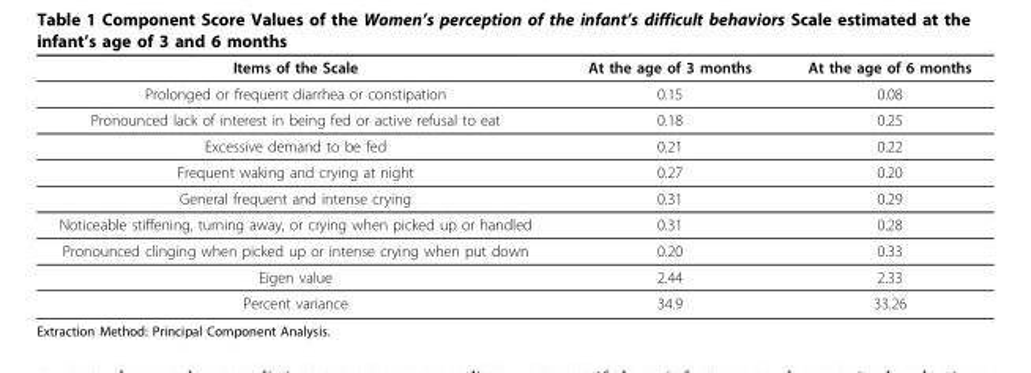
<table><thead><tr><td>Items of the Scale</td><td>At the age of 3 months</td><td>At the age of 6 months</td></tr></thead><tbody><tr><td>Prolonged or frequent diarrhea or constipation</td><td>0.15</td><td>0.08</td></tr><tr><td>Pronounced lack of interest in being fed or active refusal to eat</td><td>0.18</td><td>0.25</td></tr><tr><td>Excessive demand to be fed</td><td>0.21</td><td>0.22</td></tr><tr><td>Frequent waking and crying at night</td><td>0.27</td><td>0.20</td></tr><tr><td>General frequent and intense crying</td><td>0.31</td><td>0.29</td></tr><tr><td>Noticeable stiffening, turning away, or crying when picked up or handled</td><td>0.31</td><td>0.28</td></tr><tr><td>Pronounced clinging when picked up or intense crying when put down</td><td>0.20</td><td>0.33</td></tr><tr><td>Eigen value</td><td>2.44</td><td>2.33</td></tr><tr><td>Percent variance</td><td>34.9</td><td>33.26</td></tr></tbody></table>